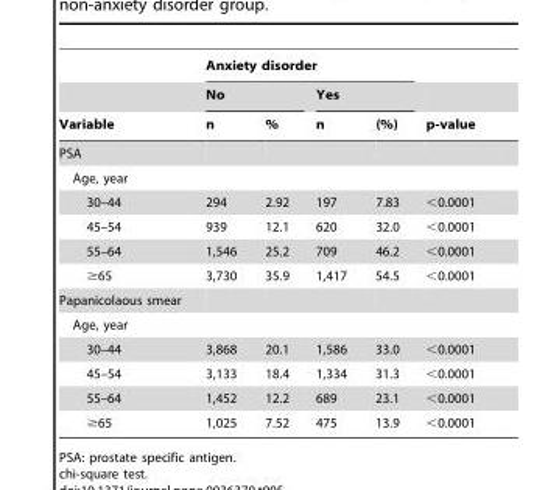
<table><thead><tr><td rowspan="3">Variable</td><td colspan="4">Anxiety disorder</td><td rowspan="3">p-value</td></tr><tr><td colspan="2">No</td><td colspan="2">Yes</td></tr><tr><td>n</td><td>%</td><td>n</td><td>(%)</td></tr></thead><tbody><tr><td colspan="6">PSA</td></tr><tr><td colspan="6">Age, year</td></tr><tr><td>30–44</td><td>294</td><td>2.92</td><td>197</td><td>7.83</td><td>&lt;0.0001</td></tr><tr><td>45–54</td><td>939</td><td>12.1</td><td>620</td><td>32.0</td><td>&lt;0.0001</td></tr><tr><td>55–64</td><td>1,546</td><td>25.2</td><td>709</td><td>46.2</td><td>&lt;0.0001</td></tr><tr><td>≥65</td><td>3,730</td><td>35.9</td><td>1,417</td><td>54.5</td><td>&lt;0.0001</td></tr><tr><td colspan="6">Papanicolaous smear</td></tr><tr><td colspan="6">Age, year</td></tr><tr><td>30–44</td><td>3,868</td><td>20.1</td><td>1,586</td><td>33.0</td><td>&lt;0.0001</td></tr><tr><td>45–54</td><td>3,133</td><td>18.4</td><td>1,334</td><td>31.3</td><td>&lt;0.0001</td></tr><tr><td>55–64</td><td>1,452</td><td>12.2</td><td>689</td><td>23.1</td><td>&lt;0.0001</td></tr><tr><td>≥65</td><td>1,025</td><td>7.52</td><td>475</td><td>13.9</td><td>&lt;0.0001</td></tr></tbody></table>